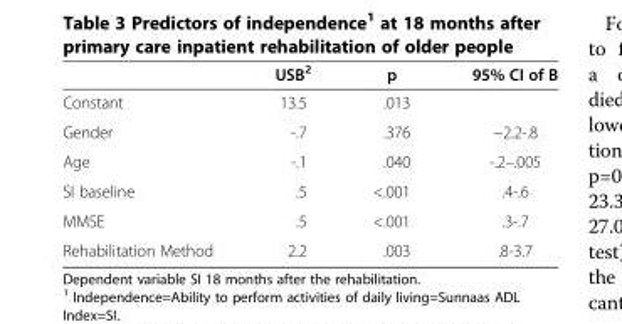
<table><thead><tr><td></td><td>USB<sup>2</sup></td><td>p</td><td>95% CI of B</td></tr></thead><tbody><tr><td>Constant</td><td>13.5</td><td>.013</td><td></td></tr><tr><td>Gender</td><td>-.7</td><td>.376</td><td>−2.2-.8</td></tr><tr><td>Age</td><td>-.1</td><td>.040</td><td>-.2–.005</td></tr><tr><td>SI baseline</td><td>.5</td><td>&lt;.001</td><td>.4-.6</td></tr><tr><td>MMSE</td><td>.5</td><td>&lt;.001</td><td>.3-.7</td></tr><tr><td>Rehabilitation Method</td><td>2.2</td><td>.003</td><td>.8-3.7</td></tr></tbody></table>